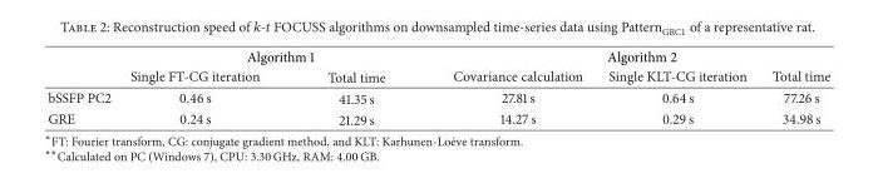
<table><thead><tr><td rowspan="2"></td><td colspan="2">Algorithm 1</td><td colspan="3">Algorithm 2</td></tr><tr><td>Single FT-CG iteration</td><td>Total time</td><td>Covariance calculation</td><td>Single KLT-CG iteration</td><td>Total time</td></tr></thead><tbody><tr><td>bSSFP PC2</td><td>0.46 s</td><td>41.35 s</td><td>27.81 s</td><td>0.64 s</td><td>77.26 s</td></tr><tr><td>GRE</td><td>0.24 s</td><td>21.29 s</td><td>14.27 s</td><td>0.29 s</td><td>34.98 s</td></tr></tbody></table>